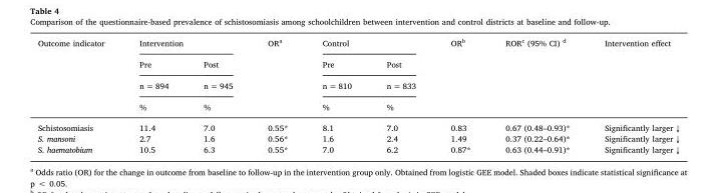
<table><thead><tr><td rowspan="4">Outcome indicator</td><td colspan="2">Intervention</td><td rowspan="4">OR<sup>a</sup></td><td colspan="2">Control</td><td rowspan="4">OR<sup>b</sup></td><td rowspan="4">ROR<sup>c</sup> (95% CI) <sup>d</sup></td><td rowspan="4">Intervention effect</td></tr><tr><td rowspan="3">Pre n = 894 %</td><td rowspan="3">Post n = 945 %</td><td rowspan="3">Pre n = 810 %</td><td rowspan="3">Post n = 833 %</td></tr><tr></tr><tr></tr></thead><tbody><tr><td>Schistosomiasis</td><td>11.4</td><td>7.0</td><td>0.55*</td><td>8.1</td><td>7.0</td><td>0.83</td><td>0.67 (0.48–0.93)*</td><td>Significantly larger ↓</td></tr><tr><td>S. mansoni</td><td>2.7</td><td>1.6</td><td>0.56*</td><td>1.6</td><td>2.4</td><td>1.49</td><td>0.37 (0.22–0.64)*</td><td>Significantly larger ↓</td></tr><tr><td>S. haematobium</td><td>10.5</td><td>6.3</td><td>0.55*</td><td>7.0</td><td>6.2</td><td>0.87*</td><td>0.63 (0.44–0.91)*</td><td>Significantly larger ↓</td></tr></tbody></table>